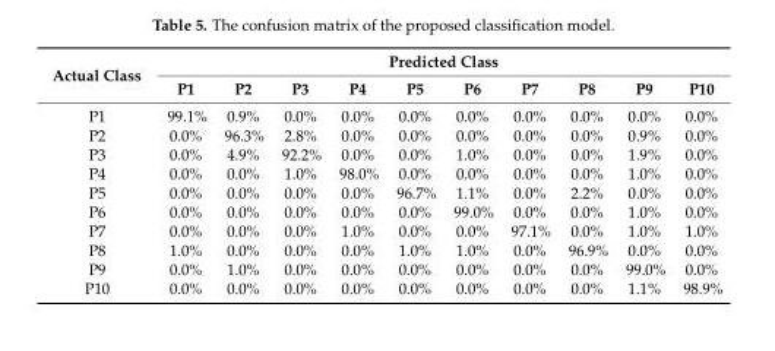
<table><thead><tr><td rowspan="2">Actual Class</td><td colspan="10">Predicted Class</td></tr><tr><td>P1</td><td>P2</td><td>P3</td><td>P4</td><td>P5</td><td>P6</td><td>P7</td><td>P8</td><td>P9</td><td>P10</td></tr></thead><tbody><tr><td>P1</td><td>99.1%</td><td>0.9%</td><td>0.0%</td><td>0.0%</td><td>0.0%</td><td>0.0%</td><td>0.0%</td><td>0.0%</td><td>0.0%</td><td>0.0%</td></tr><tr><td>P2</td><td>0.0%</td><td>96.3%</td><td>2.8%</td><td>0.0%</td><td>0.0%</td><td>0.0%</td><td>0.0%</td><td>0.0%</td><td>0.9%</td><td>0.0%</td></tr><tr><td>P3</td><td>0.0%</td><td>4.9%</td><td>92.2%</td><td>0.0%</td><td>0.0%</td><td>1.0%</td><td>0.0%</td><td>0.0%</td><td>1.9%</td><td>0.0%</td></tr><tr><td>P4</td><td>0.0%</td><td>0.0%</td><td>1.0%</td><td>98.0%</td><td>0.0%</td><td>0.0%</td><td>0.0%</td><td>0.0%</td><td>1.0%</td><td>0.0%</td></tr><tr><td>P5</td><td>0.0%</td><td>0.0%</td><td>0.0%</td><td>0.0%</td><td>96.7%</td><td>1.1%</td><td>0.0%</td><td>2.2%</td><td>0.0%</td><td>0.0%</td></tr><tr><td>P6</td><td>0.0%</td><td>0.0%</td><td>0.0%</td><td>0.0%</td><td>0.0%</td><td>99.0%</td><td>0.0%</td><td>0.0%</td><td>1.0%</td><td>0.0%</td></tr><tr><td>P7</td><td>0.0%</td><td>0.0%</td><td>0.0%</td><td>1.0%</td><td>0.0%</td><td>0.0%</td><td>97.1%</td><td>0.0%</td><td>1.0%</td><td>1.0%</td></tr><tr><td>P8</td><td>1.0%</td><td>0.0%</td><td>0.0%</td><td>0.0%</td><td>1.0%</td><td>1.0%</td><td>0.0%</td><td>96.9%</td><td>0.0%</td><td>0.0%</td></tr><tr><td>P9</td><td>0.0%</td><td>1.0%</td><td>0.0%</td><td>0.0%</td><td>0.0%</td><td>0.0%</td><td>0.0%</td><td>0.0%</td><td>99.0%</td><td>0.0%</td></tr><tr><td>P10</td><td>0.0%</td><td>0.0%</td><td>0.0%</td><td>0.0%</td><td>0.0%</td><td>0.0%</td><td>0.0%</td><td>0.0%</td><td>1.1%</td><td>98.9%</td></tr></tbody></table>